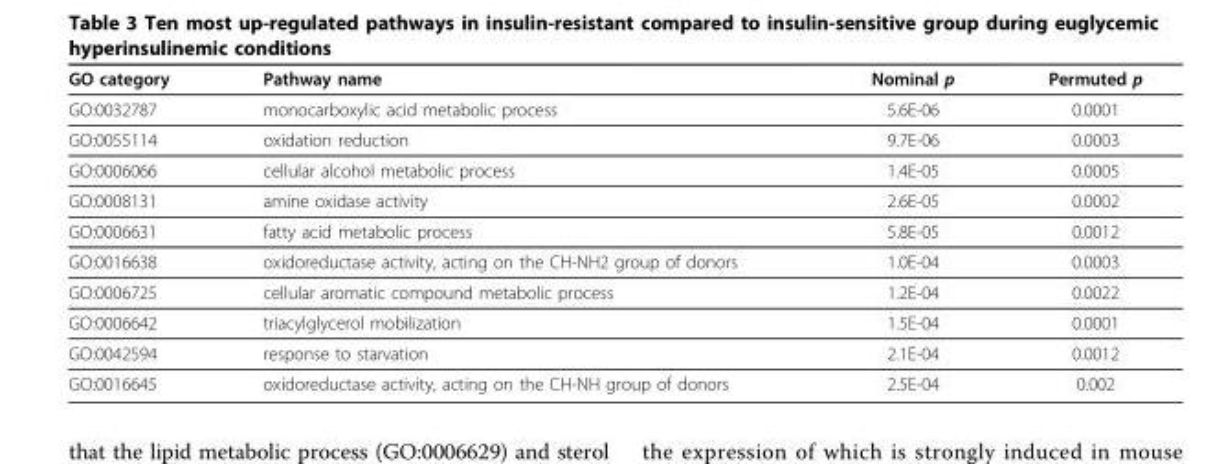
<table><thead><tr><td>GO category</td><td>Pathway name</td><td>Nominal p</td><td>Permuted p</td></tr></thead><tbody><tr><td>GO:0032787</td><td>monocarboxylic acid metabolic process</td><td>5.6E-06</td><td>0.0001</td></tr><tr><td>GO:0055114</td><td>oxidation reduction</td><td>9.7E-06</td><td>0.0003</td></tr><tr><td>GO:0006066</td><td>cellular alcohol metabolic process</td><td>1.4E-05</td><td>0.0005</td></tr><tr><td>GO:0008131</td><td>amine oxidase activity</td><td>2.6E-05</td><td>0.0002</td></tr><tr><td>GO:0006631</td><td>fatty acid metabolic process</td><td>5.8E-05</td><td>0.0012</td></tr><tr><td>GO:0016638</td><td>oxidoreductase activity, acting on the CH-NH2 group of donors</td><td>1.0E-04</td><td>0.0003</td></tr><tr><td>GO:0006725</td><td>cellular aromatic compound metabolic process</td><td>1.2E-04</td><td>0.0022</td></tr><tr><td>GO:0006642</td><td>triacylglycerol mobilization</td><td>1.5E-04</td><td>0.0001</td></tr><tr><td>GO:0042594</td><td>response to starvation</td><td>2.1E-04</td><td>0.0012</td></tr><tr><td>GO:0016645</td><td>oxidoreductase activity, acting on the CH-NH group of donors</td><td>2.5E-04</td><td>0.002</td></tr></tbody></table>